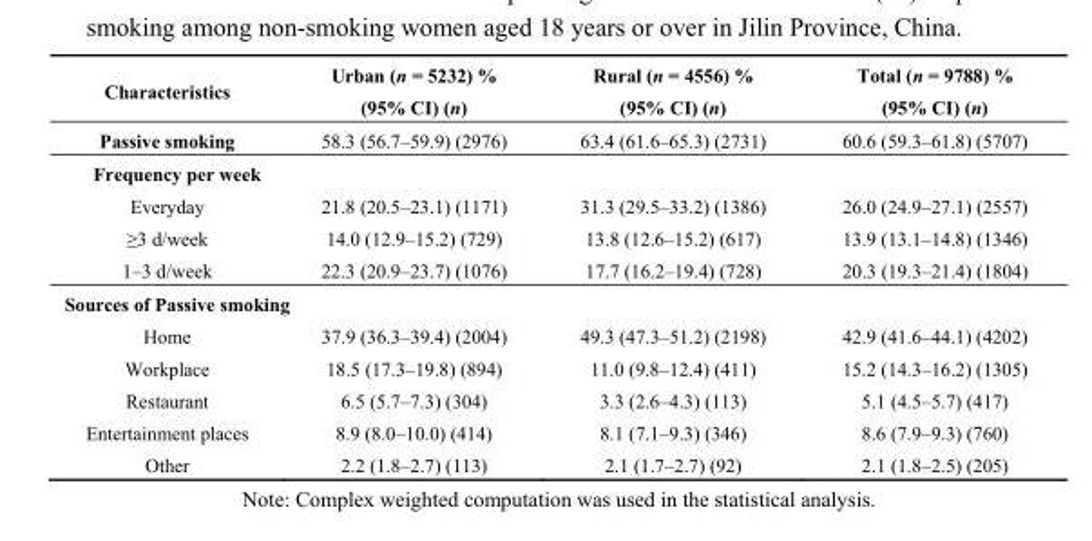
<table><thead><tr><td>Characteristics</td><td>Urban (n = 5232) % (95% CI) (n)</td><td>Rural (n = 4556) % (95% CI) (n)</td><td>Total (n = 9788) % (95% CI) (n)</td></tr></thead><tbody><tr><td>Passive smoking</td><td>58.3 (56.7–59.9) (2976)</td><td>63.4 (61.6–65.3) (2731)</td><td>60.6 (59.3–61.8) (5707)</td></tr><tr><td colspan="4">Frequency per week</td></tr><tr><td>Everyday</td><td>21.8 (20.5–23.1) (1171)</td><td>31.3 (29.5–33.2) (1386)</td><td>26.0 (24.9–27.1) (2557)</td></tr><tr><td>≥3 d/week</td><td>14.0 (12.9–15.2) (729)</td><td>13.8 (12.6–15.2) (617)</td><td>13.9 (13.1–14.8) (1346)</td></tr><tr><td>1–3 d/week</td><td>22.3 (20.9–23.7) (1076)</td><td>17.7 (16.2–19.4) (728)</td><td>20.3 (19.3–21.4) (1804)</td></tr><tr><td colspan="4">Sources of Passive smoking</td></tr><tr><td>Home</td><td>37.9 (36.3–39.4) (2004)</td><td>49.3 (47.3–51.2) (2198)</td><td>42.9 (41.6–44.1) (4202)</td></tr><tr><td>Workplace</td><td>18.5 (17.3–19.8) (894)</td><td>11.0 (9.8–12.4) (411)</td><td>15.2 (14.3–16.2) (1305)</td></tr><tr><td>Restaurant</td><td>6.5 (5.7–7.3) (304)</td><td>3.3 (2.6–4.3) (113)</td><td>5.1 (4.5–5.7) (417)</td></tr><tr><td>Entertainment places</td><td>8.9 (8.0–10.0) (414)</td><td>8.1 (7.1–9.3) (346)</td><td>8.6 (7.9–9.3) (760)</td></tr><tr><td>Other</td><td>2.2 (1.8–2.7) (113)</td><td>2.1 (1.7–2.7) (92)</td><td>2.1 (1.8–2.5) (205)</td></tr></tbody></table>